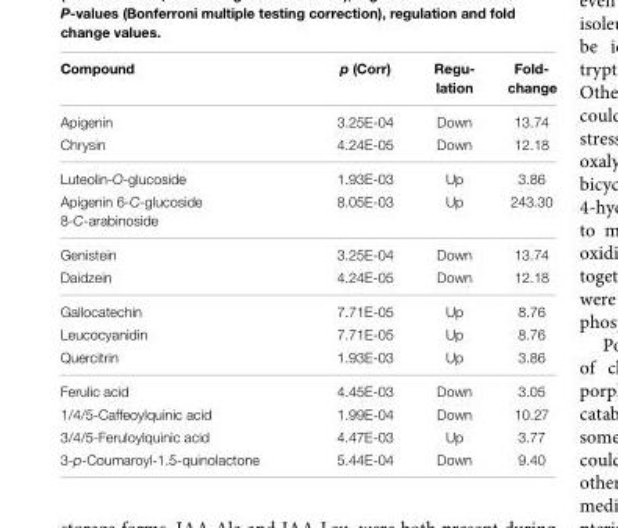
<table><thead><tr><td>Compound</td><td>p (Corr)</td><td>Regu- lation</td><td>Fold- change</td></tr></thead><tbody><tr><td>Apigenin</td><td>3.25E-04</td><td>Down</td><td>13.74</td></tr><tr><td>Chrysin</td><td>4.24E-05</td><td>Down</td><td>12.18</td></tr><tr><td>Luteolin-O-glucoside</td><td>1.93E-03</td><td>Up</td><td>3.86</td></tr><tr><td>Apigenin 6-C-glucoside 8-C-arabinoside</td><td>8.05E-03</td><td>Up</td><td>243.30</td></tr><tr><td>Genistein</td><td>3.25E-04</td><td>Down</td><td>13.74</td></tr><tr><td>Daidzein</td><td>4.24E-05</td><td>Down</td><td>12.18</td></tr><tr><td>Gallocatechin</td><td>7.71E-05</td><td>Up</td><td>8.76</td></tr><tr><td>Leucocyanidin</td><td>7.71E-05</td><td>Up</td><td>8.76</td></tr><tr><td>Quercitrin</td><td>1.93E-03</td><td>Up</td><td>3.86</td></tr><tr><td>Ferulic acid</td><td>4.45E-03</td><td>Down</td><td>3.05</td></tr><tr><td>1/4/5-Caffeoylquinic acid</td><td>1.99E-04</td><td>Down</td><td>10.27</td></tr><tr><td>3/4/5-Feruloylquinic acid</td><td>4.47E-03</td><td>Up</td><td>3.77</td></tr><tr><td>3-p-Coumaroyl-1.5-quinolactone</td><td>5.44E-04</td><td>Down</td><td>9.40</td></tr></tbody></table>